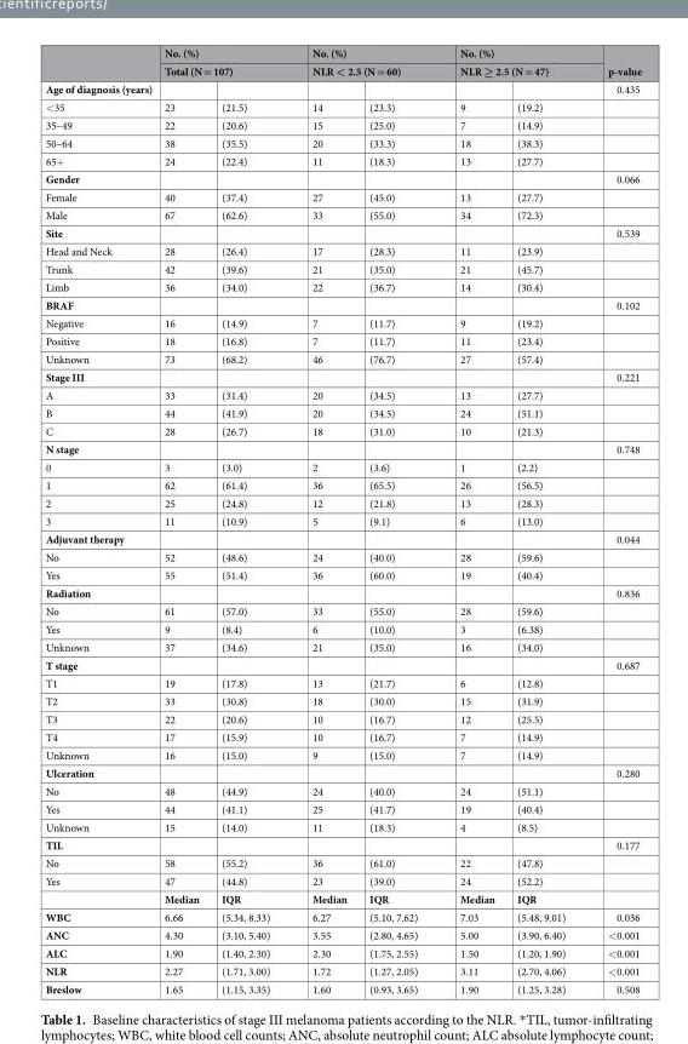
<table><thead><tr><td rowspan="3">Age of diagnosis (years)</td><td rowspan="2" colspan="2">No. (%) Total (N = 107)</td><td rowspan="2" colspan="2">No. (%) NLR &lt; 2.5 (N = 60)</td><td rowspan="2" colspan="2">No. (%) NLR ≥ 2.5 (N = 47)</td><td rowspan="3">p-value 0.435</td></tr><tr></tr><tr><td></td><td></td><td></td><td></td><td></td><td></td></tr></thead><tbody><tr><td>&lt;35</td><td>23</td><td>(21.5)</td><td>14</td><td>(23.3)</td><td>9</td><td>(19.2)</td><td></td></tr><tr><td>35–49</td><td>22</td><td>(20.6)</td><td>15</td><td>(25.0)</td><td>7</td><td>(14.9)</td><td></td></tr><tr><td>50–64</td><td>38</td><td>(35.5)</td><td>20</td><td>(33.3)</td><td>18</td><td>(38.3)</td><td></td></tr><tr><td>65+</td><td>24</td><td>(22.4)</td><td>11</td><td>(18.3)</td><td>13</td><td>(27.7)</td><td></td></tr><tr><td>Gender</td><td></td><td></td><td></td><td></td><td></td><td></td><td>0.066</td></tr><tr><td>Female</td><td>40</td><td>(37.4)</td><td>27</td><td>(45.0)</td><td>13</td><td>(27.7)</td><td></td></tr><tr><td>Male</td><td>67</td><td>(62.6)</td><td>33</td><td>(55.0)</td><td>34</td><td>(72.3)</td><td></td></tr><tr><td>Site</td><td></td><td></td><td></td><td></td><td></td><td></td><td>0.539</td></tr><tr><td>Head and Neck</td><td>28</td><td>(26.4)</td><td>17</td><td>(28.3)</td><td>11</td><td>(23.9)</td><td></td></tr><tr><td>Trunk</td><td>42</td><td>(39.6)</td><td>21</td><td>(35.0)</td><td>21</td><td>(45.7)</td><td></td></tr><tr><td>Limb</td><td>36</td><td>(34.0)</td><td>22</td><td>(36.7)</td><td>14</td><td>(30.4)</td><td></td></tr><tr><td>BRAF</td><td></td><td></td><td></td><td></td><td></td><td></td><td>0.102</td></tr><tr><td>Negative</td><td>16</td><td>(14.9)</td><td>7</td><td>(11.7)</td><td>9</td><td>(19.2)</td><td></td></tr><tr><td>Positive</td><td>18</td><td>(16.8)</td><td>7</td><td>(11.7)</td><td>11</td><td>(23.4)</td><td></td></tr><tr><td>Unknown</td><td>73</td><td>(68.2)</td><td>46</td><td>(76.7)</td><td>27</td><td>(57.4)</td><td></td></tr><tr><td>Stage III</td><td></td><td></td><td></td><td></td><td></td><td></td><td>0.221</td></tr><tr><td>A</td><td>33</td><td>(31.4)</td><td>20</td><td>(34.5)</td><td>13</td><td>(27.7)</td><td></td></tr><tr><td>B</td><td>44</td><td>(41.9)</td><td>20</td><td>(34.5)</td><td>24</td><td>(51.1)</td><td></td></tr><tr><td>C</td><td>28</td><td>(26.7)</td><td>18</td><td>(31.0)</td><td>10</td><td>(21.3)</td><td></td></tr><tr><td>N stage</td><td></td><td></td><td></td><td></td><td></td><td></td><td>0.748</td></tr><tr><td>0</td><td>3</td><td>(3.0)</td><td>2</td><td>(3.6)</td><td>1</td><td>(2.2)</td><td></td></tr><tr><td>1</td><td>62</td><td>(61.4)</td><td>36</td><td>(65.5)</td><td>26</td><td>(56.5)</td><td></td></tr><tr><td>2</td><td>25</td><td>(24.8)</td><td>12</td><td>(21.8)</td><td>13</td><td>(28.3)</td><td></td></tr><tr><td>3</td><td>11</td><td>(10.9)</td><td>5</td><td>(9.1)</td><td>6</td><td>(13.0)</td><td></td></tr><tr><td>Adjuvant therapy</td><td></td><td></td><td></td><td></td><td></td><td></td><td>0.044</td></tr><tr><td>No</td><td>52</td><td>(48.6)</td><td>24</td><td>(40.0)</td><td>28</td><td>(59.6)</td><td></td></tr><tr><td>Yes</td><td>55</td><td>(51.4)</td><td>36</td><td>(60.0)</td><td>19</td><td>(40.4)</td><td></td></tr><tr><td>Radiation</td><td></td><td></td><td></td><td></td><td></td><td></td><td>0.836</td></tr><tr><td>No</td><td>61</td><td>(57.0)</td><td>33</td><td>(55.0)</td><td>28</td><td>(59.6)</td><td></td></tr><tr><td>Yes</td><td>9</td><td>(8.4)</td><td>6</td><td>(10.0)</td><td>3</td><td>(6.38)</td><td></td></tr><tr><td>Unknown</td><td>37</td><td>(34.6)</td><td>21</td><td>(35.0)</td><td>16</td><td>(34.0)</td><td></td></tr><tr><td>T stage</td><td></td><td></td><td></td><td></td><td></td><td></td><td>0.687</td></tr><tr><td>T1</td><td>19</td><td>(17.8)</td><td>13</td><td>(21.7)</td><td>6</td><td>(12.8)</td><td></td></tr><tr><td>T2</td><td>33</td><td>(30.8)</td><td>18</td><td>(30.0)</td><td>15</td><td>(31.9)</td><td></td></tr><tr><td>T3</td><td>22</td><td>(20.6)</td><td>10</td><td>(16.7)</td><td>12</td><td>(25.5)</td><td></td></tr><tr><td>T4</td><td>17</td><td>(15.9)</td><td>10</td><td>(16.7)</td><td>7</td><td>(14.9)</td><td></td></tr><tr><td>Unknown</td><td>16</td><td>(15.0)</td><td>9</td><td>(15.0)</td><td>7</td><td>(14.9)</td><td></td></tr><tr><td>Ulceration</td><td></td><td></td><td></td><td></td><td></td><td></td><td>0.280</td></tr><tr><td>No</td><td>48</td><td>(44.9)</td><td>24</td><td>(40.0)</td><td>24</td><td>(51.1)</td><td></td></tr><tr><td>Yes</td><td>44</td><td>(41.1)</td><td>25</td><td>(41.7)</td><td>19</td><td>(40.4)</td><td></td></tr><tr><td>Unknown</td><td>15</td><td>(14.0)</td><td>11</td><td>(18.3)</td><td>4</td><td>(8.5)</td><td></td></tr><tr><td>TIL</td><td></td><td></td><td></td><td></td><td></td><td></td><td>0.177</td></tr><tr><td>No</td><td>58</td><td>(55.2)</td><td>36</td><td>(61.0)</td><td>22</td><td>(47.8)</td><td></td></tr><tr><td rowspan="2">Yes</td><td>47</td><td>(44.8)</td><td>23</td><td>(39.0)</td><td>24</td><td>(52.2)</td><td></td></tr><tr><td>Median</td><td>IQR</td><td>Median</td><td>IQR</td><td>Median</td><td>IQR</td><td></td></tr><tr><td>WBC</td><td>6.66</td><td>(5.34, 8.33)</td><td>6.27</td><td>(5.10, 7.62)</td><td>7.03</td><td>(5.48, 9.01)</td><td>0.036</td></tr><tr><td>ANC</td><td>4.30</td><td>(3.10, 5.40)</td><td>3.55</td><td>(2.80, 4.65)</td><td>5.00</td><td>(3.90, 6.40)</td><td>&lt;0.001</td></tr><tr><td>ALC</td><td>1.90</td><td>(1.40, 2.30)</td><td>2.30</td><td>(1.75, 2.55)</td><td>1.50</td><td>(1.20, 1.90)</td><td>&lt;0.001</td></tr><tr><td>NLR</td><td>2.27</td><td>(1.71, 3.00)</td><td>1.72</td><td>(1.27, 2.05)</td><td>3.11</td><td>(2.70, 4.06)</td><td>&lt;0.001</td></tr><tr><td>Breslow</td><td>1.65</td><td>(1.15, 3.35)</td><td>1.60</td><td>(0.93, 3.65)</td><td>1.90</td><td>(1.25, 3.28)</td><td>0.508</td></tr></tbody></table>